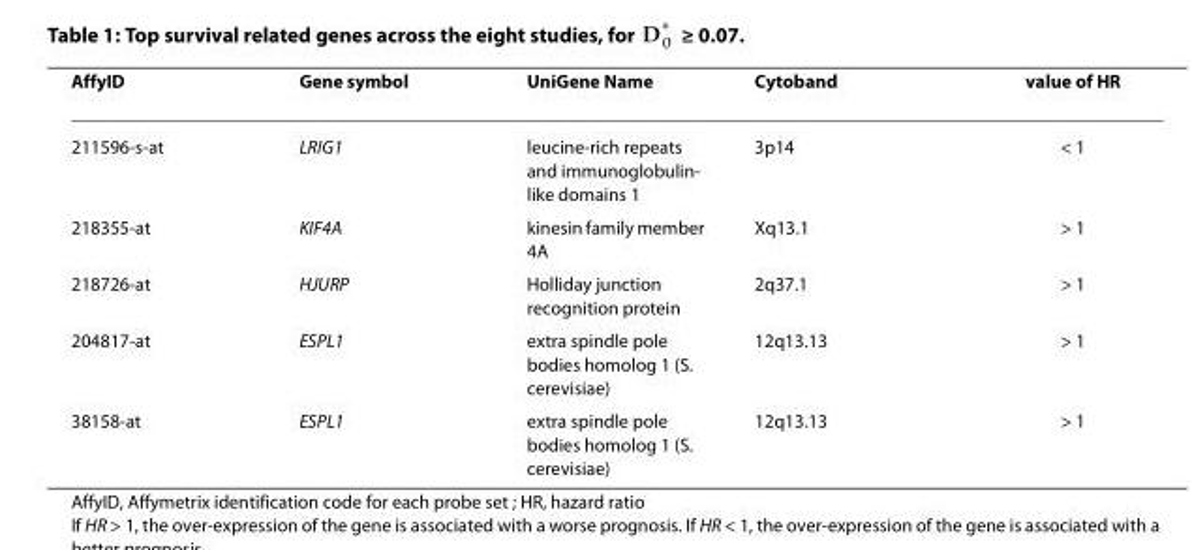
<table><thead><tr><td>AffyID</td><td>Gene symbol</td><td>UniGene Name</td><td>Cytoband</td><td>value of HR</td></tr></thead><tbody><tr><td>211596-s-at</td><td>LRIG1</td><td>leucine-rich repeats and immunoglobulin- like domains 1</td><td>3p14</td><td>&lt; 1</td></tr><tr><td>218355-at</td><td>KIF4A</td><td>kinesin family member 4A</td><td>Xq13.1</td><td>&gt; 1</td></tr><tr><td>218726-at</td><td>HJURP</td><td>Holliday junction recognition protein</td><td>2q37.1</td><td>&gt; 1</td></tr><tr><td>204817-at</td><td>ESPL1</td><td>extra spindle pole bodies homolog 1 (S. cerevisiae)</td><td>12q13.13</td><td>&gt; 1</td></tr><tr><td>38158-at</td><td>ESPL1</td><td>extra spindle pole bodies homolog 1 (S. cerevisiae)</td><td>12q13.13</td><td>&gt; 1</td></tr></tbody></table>